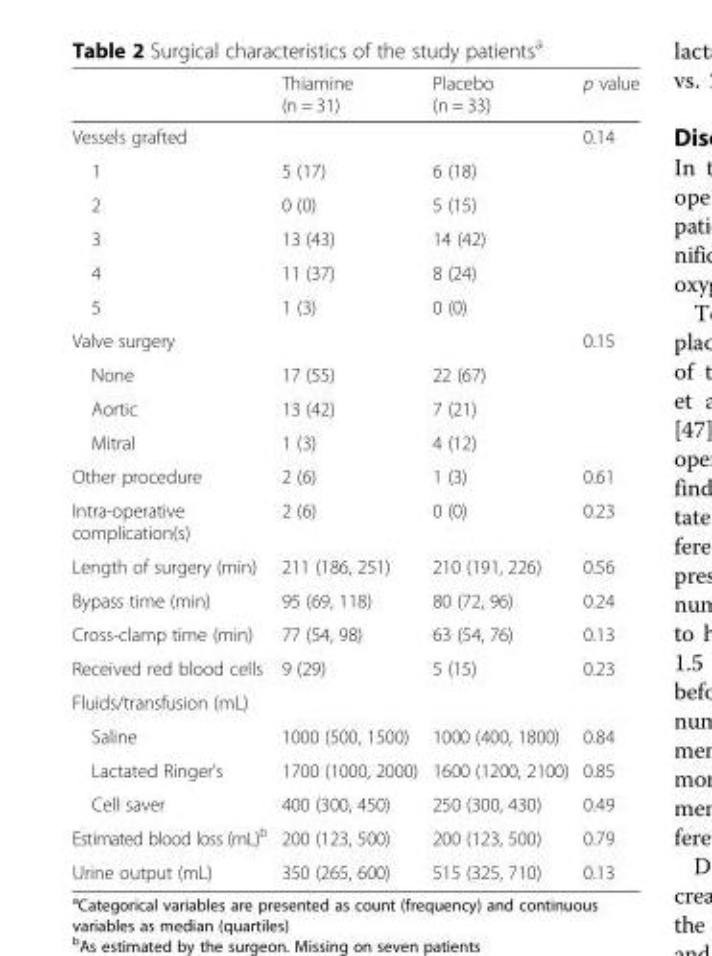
<table><thead><tr><td></td><td>Thiamine (n = 31)</td><td>Placebo (n = 33)</td><td>p value</td></tr></thead><tbody><tr><td>Vessels grafted</td><td></td><td></td><td>0.14</td></tr><tr><td>1</td><td>5 (17)</td><td>6 (18)</td><td></td></tr><tr><td>2</td><td>0 (0)</td><td>5 (15)</td><td></td></tr><tr><td>3</td><td>13 (43)</td><td>14 (42)</td><td></td></tr><tr><td>4</td><td>11 (37)</td><td>8 (24)</td><td></td></tr><tr><td>5</td><td>1 (3)</td><td>0 (0)</td><td></td></tr><tr><td>Valve surgery</td><td></td><td></td><td>0.15</td></tr><tr><td>None</td><td>17 (55)</td><td>22 (67)</td><td></td></tr><tr><td>Aortic</td><td>13 (42)</td><td>7 (21)</td><td></td></tr><tr><td>Mitral</td><td>1 (3)</td><td>4 (12)</td><td></td></tr><tr><td>Other procedure</td><td>2 (6)</td><td>1 (3)</td><td>0.61</td></tr><tr><td>Intra-operative complication(s)</td><td>2 (6)</td><td>0 (0)</td><td>0.23</td></tr><tr><td>Length of surgery (min)</td><td>211 (186, 251)</td><td>210 (191, 226)</td><td>0.56</td></tr><tr><td>Bypass time (min)</td><td>95 (69, 118)</td><td>80 (72, 96)</td><td>0.24</td></tr><tr><td>Cross-clamp time (min)</td><td>77 (54, 98)</td><td>63 (54, 76)</td><td>0.13</td></tr><tr><td>Received red blood cells</td><td>9 (29)</td><td>5 (15)</td><td>0.23</td></tr><tr><td colspan="4">Fluids/transfusion (mL)</td></tr><tr><td>Saline</td><td>1000 (500, 1500)</td><td>1000 (400, 1800)</td><td>0.84</td></tr><tr><td>Lactated Ringer’s</td><td>1700 (1000, 2000)</td><td>1600 (1200, 2100)</td><td>0.85</td></tr><tr><td>Cell saver</td><td>400 (300, 450)</td><td>250 (300, 430)</td><td>0.49</td></tr><tr><td>Estimated blood loss (mL)<sup>b</sup></td><td>200 (123, 500)</td><td>200 (123, 500)</td><td>0.79</td></tr><tr><td>Urine output (mL)</td><td>350 (265, 600)</td><td>515 (325, 710)</td><td>0.13</td></tr></tbody></table>